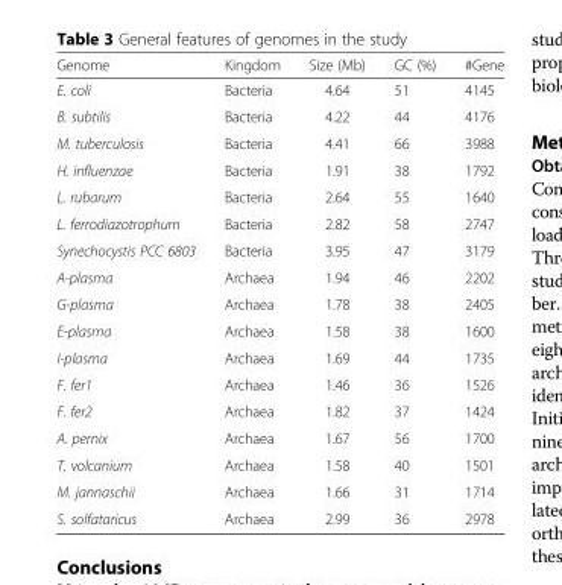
<table><thead><tr><td>Genome</td><td>Kingdom</td><td>Size (Mb)</td><td>GC (%)</td><td>#Gene</td></tr></thead><tbody><tr><td>E. coli</td><td>Bacteria</td><td>4.64</td><td>51</td><td>4145</td></tr><tr><td>B. subtilis</td><td>Bacteria</td><td>4.22</td><td>44</td><td>4176</td></tr><tr><td>M. tuberculosis</td><td>Bacteria</td><td>4.41</td><td>66</td><td>3988</td></tr><tr><td>H. influenzae</td><td>Bacteria</td><td>1.91</td><td>38</td><td>1792</td></tr><tr><td>L. rubarum</td><td>Bacteria</td><td>2.64</td><td>55</td><td>1640</td></tr><tr><td>L. ferrodiazotrophum</td><td>Bacteria</td><td>2.82</td><td>58</td><td>2747</td></tr><tr><td>Synechocystis PCC 6803</td><td>Bacteria</td><td>3.95</td><td>47</td><td>3179</td></tr><tr><td>A-plasma</td><td>Archaea</td><td>1.94</td><td>46</td><td>2202</td></tr><tr><td>G-plasma</td><td>Archaea</td><td>1.78</td><td>38</td><td>2405</td></tr><tr><td>E-plasma</td><td>Archaea</td><td>1.58</td><td>38</td><td>1600</td></tr><tr><td>I-plasma</td><td>Archaea</td><td>1.69</td><td>44</td><td>1735</td></tr><tr><td>F. fer1</td><td>Archaea</td><td>1.46</td><td>36</td><td>1526</td></tr><tr><td>F. fer2</td><td>Archaea</td><td>1.82</td><td>37</td><td>1424</td></tr><tr><td>A. pernix</td><td>Archaea</td><td>1.67</td><td>56</td><td>1700</td></tr><tr><td>T. volcanium</td><td>Archaea</td><td>1.58</td><td>40</td><td>1501</td></tr><tr><td>M. jannaschii</td><td>Archaea</td><td>1.66</td><td>31</td><td>1714</td></tr><tr><td>S. solfataricus</td><td>Archaea</td><td>2.99</td><td>36</td><td>2978</td></tr></tbody></table>